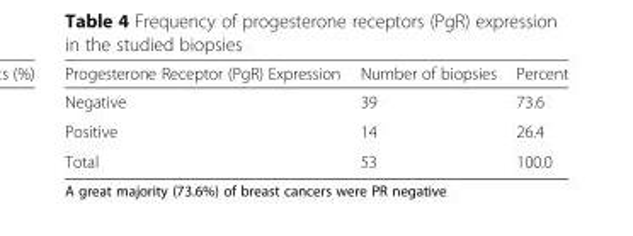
<table><thead><tr><td>Progesterone Receptor (PgR) Expression</td><td>Number of biopsies</td><td>Percent</td></tr></thead><tbody><tr><td>Negative</td><td>39</td><td>73.6</td></tr><tr><td>Positive</td><td>14</td><td>26.4</td></tr><tr><td>Total</td><td>53</td><td>100.0</td></tr></tbody></table>